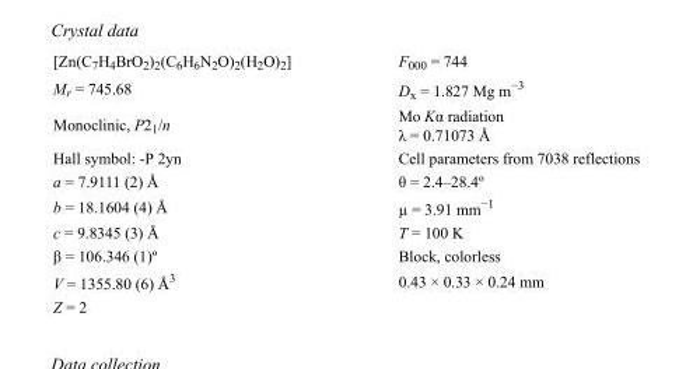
<table><tbody><tr><td>[Zn(C<sub>7</sub>H<sub>4</sub>BrO<sub>2</sub>)<sub>2</sub>(C<sub>6</sub>H<sub>6</sub>N<sub>2</sub>O)<sub>2</sub>(H<sub>2</sub>O)<sub>2</sub>]</td><td>F000 = 744</td></tr><tr><td>M<sub>r</sub> = 745.68</td><td>D<sub>x</sub> = 1.827 Mg m<sup>−3</sup></td></tr><tr><td>Monoclinic, P2<sub>1</sub>/n</td><td>Mo Kα radiation λ = 0.71073 Å</td></tr><tr><td>Hall symbol: -P 2yn</td><td>Cell parameters from 7038 reflections</td></tr><tr><td>a = 7.9111 (2) Å</td><td>θ = 2.4–28.4º</td></tr><tr><td>b = 18.1604 (4) Å</td><td>µ = 3.91 mm<sup>−1</sup></td></tr><tr><td>c = 9.8345 (3) Å</td><td>T = 100 K</td></tr><tr><td>β = 106.346 (1)º</td><td>Block, colorless</td></tr><tr><td>V = 1355.80 (6) Å<sup>3</sup></td><td>0.43 × 0.33 × 0.24 mm</td></tr><tr><td>Z = 2</td><td></td></tr></tbody></table>